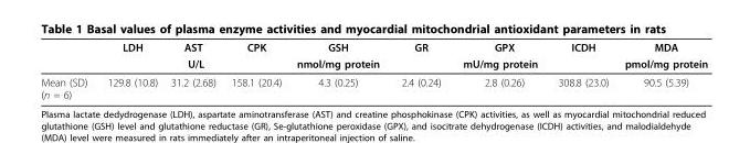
<table><thead><tr><td rowspan="2"></td><td>LDH</td><td>AST</td><td>CPK</td><td rowspan="2">GSH nmol/mg protein</td><td>GR</td><td>GPX</td><td>ICDH</td><td rowspan="2">MDA pmol/mg protein</td></tr><tr><td colspan="3">U/L</td><td colspan="3">mU/mg protein</td></tr></thead><tbody><tr><td>Mean (SD) (n = 6)</td><td>129.8 (10.8)</td><td>31.2 (2.68)</td><td>158.1 (20.4)</td><td>4.3 (0.25)</td><td>2.4 (0.24)</td><td>2.8 (0.26)</td><td>308.8 (23.0)</td><td>90.5 (5.39)</td></tr></tbody></table>